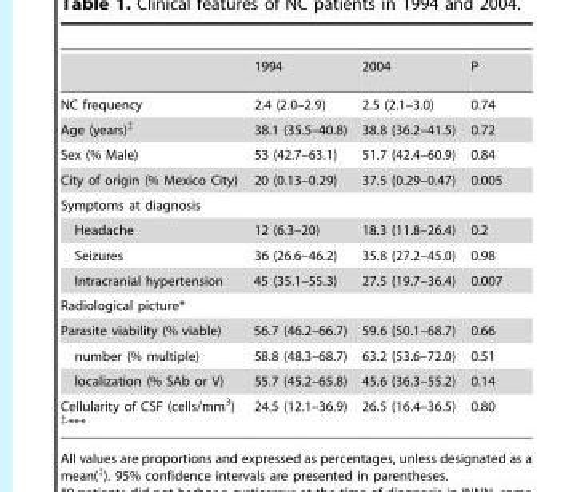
<table><thead><tr><td></td><td>1994</td><td>2004</td><td>P</td></tr></thead><tbody><tr><td>NC frequency</td><td>2.4 (2.0–2.9)</td><td>2.5 (2.1–3.0)</td><td>0.74</td></tr><tr><td>Age (years)<sup>‡</sup></td><td>38.1 (35.5–40.8)</td><td>38.8 (36.2–41.5)</td><td>0.72</td></tr><tr><td>Sex (% Male)</td><td>53 (42.7–63.1)</td><td>51.7 (42.4–60.9)</td><td>0.84</td></tr><tr><td>City of origin (% Mexico City)</td><td>20 (0.13–0.29)</td><td>37.5 (0.29–0.47)</td><td>0.005</td></tr><tr><td colspan="4">Symptoms at diagnosis</td></tr><tr><td>Headache</td><td>12 (6.3–20)</td><td>18.3 (11.8–26.4)</td><td>0.2</td></tr><tr><td>Seizures</td><td>36 (26.6–46.2)</td><td>35.8 (27.2–45.0)</td><td>0.98</td></tr><tr><td>Intracranial hypertension</td><td>45 (35.1–55.3)</td><td>27.5 (19.7–36.4)</td><td>0.007</td></tr><tr><td colspan="4">Radiological picture*</td></tr><tr><td>Parasite viability (% viable)</td><td>56.7 (46.2–66.7)</td><td>59.6 (50.1–68.7)</td><td>0.66</td></tr><tr><td>number (% multiple)</td><td>58.8 (48.3–68.7)</td><td>63.2 (53.6–72.0)</td><td>0.51</td></tr><tr><td>localization (% SAb or V)</td><td>55.7 (45.2–65.8)</td><td>45.6 (36.3–55.2)</td><td>0.14</td></tr><tr><td>Cellularity of CSF (cells/mm<sup>3</sup>) <sup>‡,</sup>***</td><td>24.5 (12.1–36.9)</td><td>26.5 (16.4–36.5)</td><td>0.80</td></tr></tbody></table>